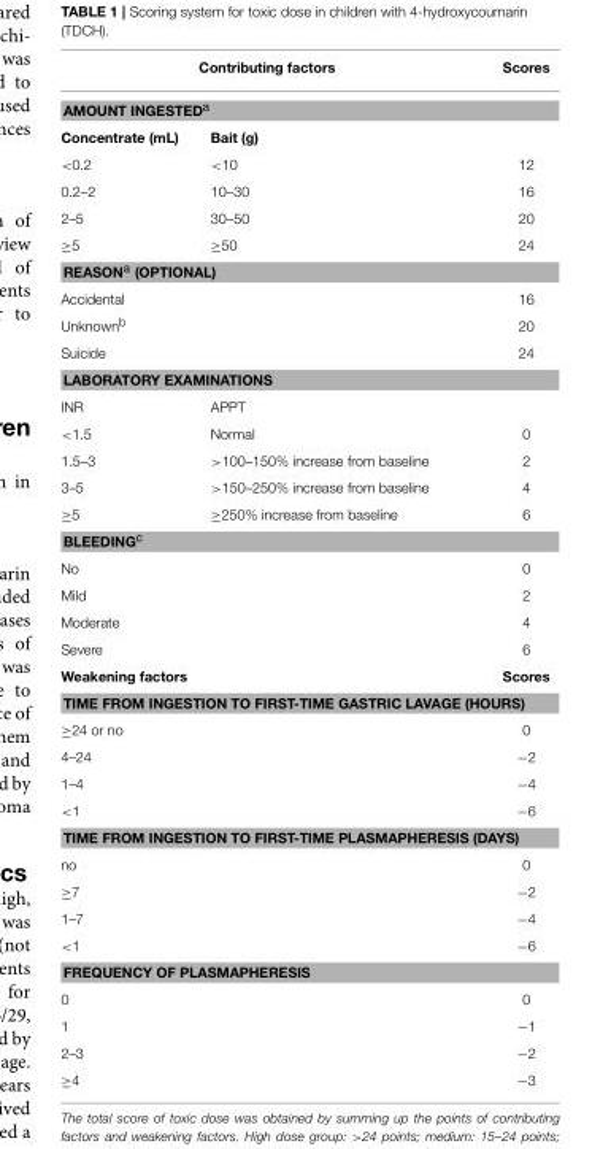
<table><thead><tr><td colspan="2">Contributing factors</td><td>Scores</td></tr><tr><td colspan="3">AMOUNT INGESTED<sup>a</sup></td></tr><tr><td>Concentrate (mL)</td><td>Bait (g)</td><td></td></tr></thead><tbody><tr><td>&lt;0.2</td><td>&lt;10</td><td>12</td></tr><tr><td>0.2–2</td><td>10–30</td><td>16</td></tr><tr><td>2–5</td><td>30–50</td><td>20</td></tr><tr><td>≥5</td><td>≥50</td><td>24</td></tr><tr><td colspan="3">REASON<sup>a</sup> (OPTIONAL)</td></tr><tr><td>Accidental</td><td></td><td>16</td></tr><tr><td>Unknown<sup>b</sup></td><td></td><td>20</td></tr><tr><td>Suicide</td><td></td><td>24</td></tr><tr><td colspan="3">LABORATORY EXAMINATIONS</td></tr><tr><td>INR</td><td>APPT</td><td></td></tr><tr><td>&lt;1.5</td><td>Normal</td><td>0</td></tr><tr><td>1.5–3</td><td>&gt;100–150% increase from baseline</td><td>2</td></tr><tr><td>3–5</td><td>&gt;150–250% increase from baseline</td><td>4</td></tr><tr><td>≥5</td><td>≥250% increase from baseline</td><td>6</td></tr><tr><td colspan="3">BLEEDING<sup>c</sup></td></tr><tr><td>No</td><td></td><td>0</td></tr><tr><td>Mild</td><td></td><td>2</td></tr><tr><td>Moderate</td><td></td><td>4</td></tr><tr><td>Severe</td><td></td><td>6</td></tr><tr><td colspan="2">Weakening factors</td><td>Scores</td></tr><tr><td colspan="3">TIME FROM INGESTION TO FIRST-TIME GASTRIC LAVAGE (HOURS)</td></tr><tr><td>≥24 or no</td><td></td><td>0</td></tr><tr><td>4–24</td><td></td><td>−2</td></tr><tr><td>1–4</td><td></td><td>−4</td></tr><tr><td>&lt;1</td><td></td><td>−6</td></tr><tr><td colspan="3">TIME FROM INGESTION TO FIRST-TIME PLASMAPHERESIS (DAYS)</td></tr><tr><td>no</td><td></td><td>0</td></tr><tr><td>≥7</td><td></td><td>−2</td></tr><tr><td>1–7</td><td></td><td>−4</td></tr><tr><td>&lt;1</td><td></td><td>−6</td></tr><tr><td colspan="3">FREQUENCY OF PLASMAPHERESIS</td></tr><tr><td>0</td><td></td><td>0</td></tr><tr><td>1</td><td></td><td>−1</td></tr><tr><td>2–3</td><td></td><td>−2</td></tr><tr><td>≥4</td><td></td><td>−3</td></tr></tbody></table>